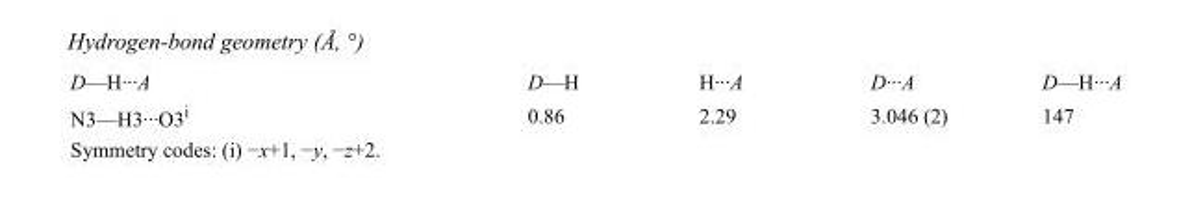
<table><tbody><tr><td>D—H···A</td><td>D—H</td><td>H···A</td><td>D···A</td><td>D—H···A</td></tr><tr><td>N3—H3···O3<sup>i</sup></td><td>0.86</td><td>2.29</td><td>3.046 (2)</td><td>147</td></tr></tbody></table>